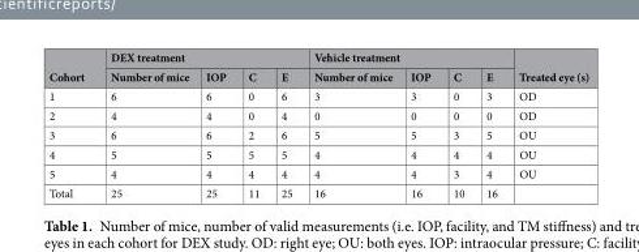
<table><thead><tr><td rowspan="2">Cohort</td><td colspan="4">DEX treatment</td><td colspan="4">Vehicle treatment</td><td rowspan="2">Treated eye (s)</td></tr><tr><td>Number of mice</td><td>IOP</td><td>C</td><td>E</td><td>Number of mice</td><td>IOP</td><td>C</td><td>E</td></tr></thead><tbody><tr><td>1</td><td>6</td><td>6</td><td>0</td><td>6</td><td>3</td><td>3</td><td>0</td><td>3</td><td>OD</td></tr><tr><td>2</td><td>4</td><td>4</td><td>0</td><td>4</td><td>0</td><td>0</td><td>0</td><td>0</td><td>OD</td></tr><tr><td>3</td><td>6</td><td>6</td><td>2</td><td>6</td><td>5</td><td>5</td><td>3</td><td>5</td><td>OU</td></tr><tr><td>4</td><td>5</td><td>5</td><td>5</td><td>5</td><td>4</td><td>4</td><td>4</td><td>4</td><td>OU</td></tr><tr><td>5</td><td>4</td><td>4</td><td>4</td><td>4</td><td>4</td><td>4</td><td>3</td><td>4</td><td>OU</td></tr><tr><td>Total</td><td>25</td><td>25</td><td>11</td><td>25</td><td>16</td><td>16</td><td>10</td><td>16</td><td></td></tr></tbody></table>